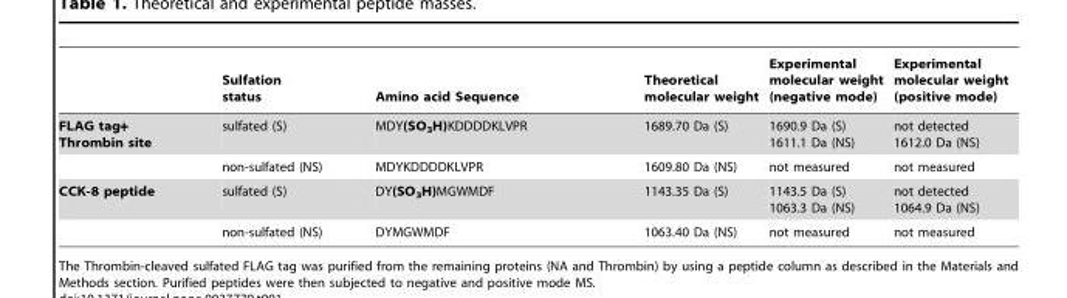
<table><thead><tr><td></td><td>Sulfation status</td><td>Amino acid Sequence</td><td>Theoretical molecular weight</td><td>Experimental molecular weight (negative mode)</td><td>Experimental molecular weight (positive mode)</td></tr></thead><tbody><tr><td rowspan="2">FLAG tag+ Thrombin site</td><td>sulfated (S)</td><td>MDY(SO<sub>3</sub>H)KDDDDKLVPR</td><td>1689.70 Da (S)</td><td>1690.9 Da (S) 1611.1 Da (NS)</td><td>not detected 1612.0 Da (NS)</td></tr><tr><td>non-sulfated (NS)</td><td>MDYKDDDDKLVPR</td><td>1609.80 Da (NS)</td><td>not measured</td><td>not measured</td></tr><tr><td rowspan="2">CCK-8 peptide</td><td>sulfated (S)</td><td>DY(SO<sub>3</sub>H)MGWMDF</td><td>1143.35 Da (S)</td><td>1143.5 Da (S) 1063.3 Da (NS)</td><td>not detected 1064.9 Da (NS)</td></tr><tr><td>non-sulfated (NS)</td><td>DYMGWMDF</td><td>1063.40 Da (NS)</td><td>not measured</td><td>not measured</td></tr></tbody></table>